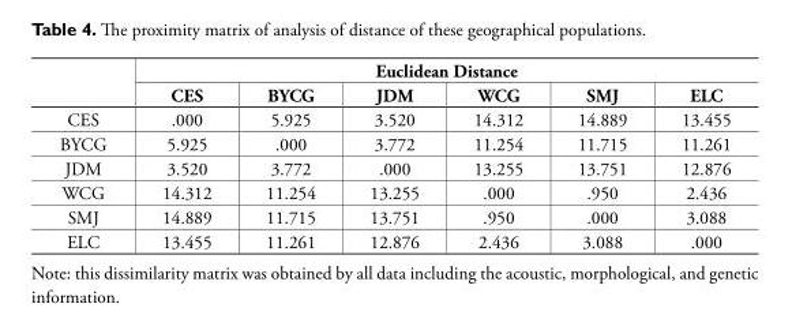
<table><thead><tr><td rowspan="2"></td><td colspan="6">Euclidean Distance</td></tr><tr><td>CES</td><td>BYCG</td><td>JDM</td><td>WCG</td><td>SMJ</td><td>ELC</td></tr></thead><tbody><tr><td>CES</td><td>.000</td><td>5.925</td><td>3.520</td><td>14.312</td><td>14.889</td><td>13.455</td></tr><tr><td>BYCG</td><td>5.925</td><td>.000</td><td>3.772</td><td>11.254</td><td>11.715</td><td>11.261</td></tr><tr><td>JDM</td><td>3.520</td><td>3.772</td><td>.000</td><td>13.255</td><td>13.751</td><td>12.876</td></tr><tr><td>WCG</td><td>14.312</td><td>11.254</td><td>13.255</td><td>.000</td><td>.950</td><td>2.436</td></tr><tr><td>SMJ</td><td>14.889</td><td>11.715</td><td>13.751</td><td>.950</td><td>.000</td><td>3.088</td></tr><tr><td>ELC</td><td>13.455</td><td>11.261</td><td>12.876</td><td>2.436</td><td>3.088</td><td>.000</td></tr></tbody></table>